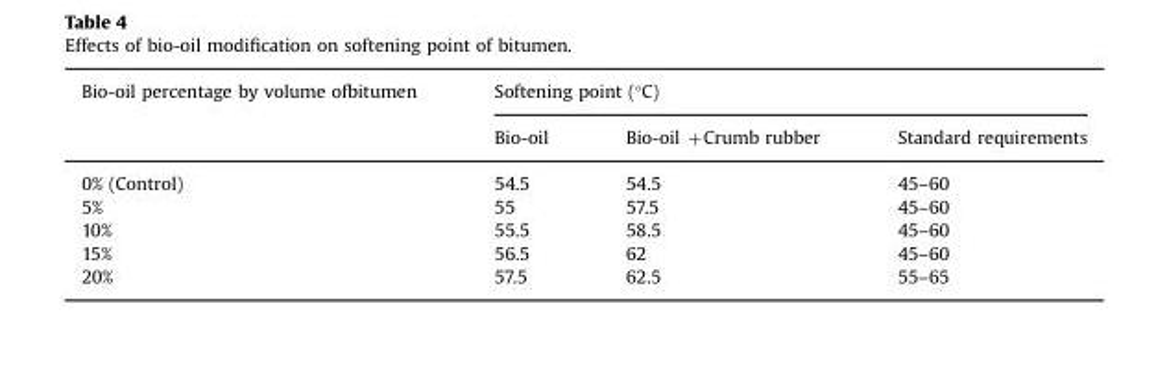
<table><thead><tr><td rowspan="2">Bio-oil percentage by volume ofbitumen</td><td colspan="3">Softening point (°C)</td></tr><tr><td>Bio-oil</td><td>Bio-oil +Crumb rubber</td><td>Standard requirements</td></tr></thead><tbody><tr><td>0% (Control)</td><td>54.5</td><td>54.5</td><td>45–60</td></tr><tr><td>5%</td><td>55</td><td>57.5</td><td>45–60</td></tr><tr><td>10%</td><td>55.5</td><td>58.5</td><td>45–60</td></tr><tr><td>15%</td><td>56.5</td><td>62</td><td>45–60</td></tr><tr><td>20%</td><td>57.5</td><td>62.5</td><td>55–65</td></tr></tbody></table>